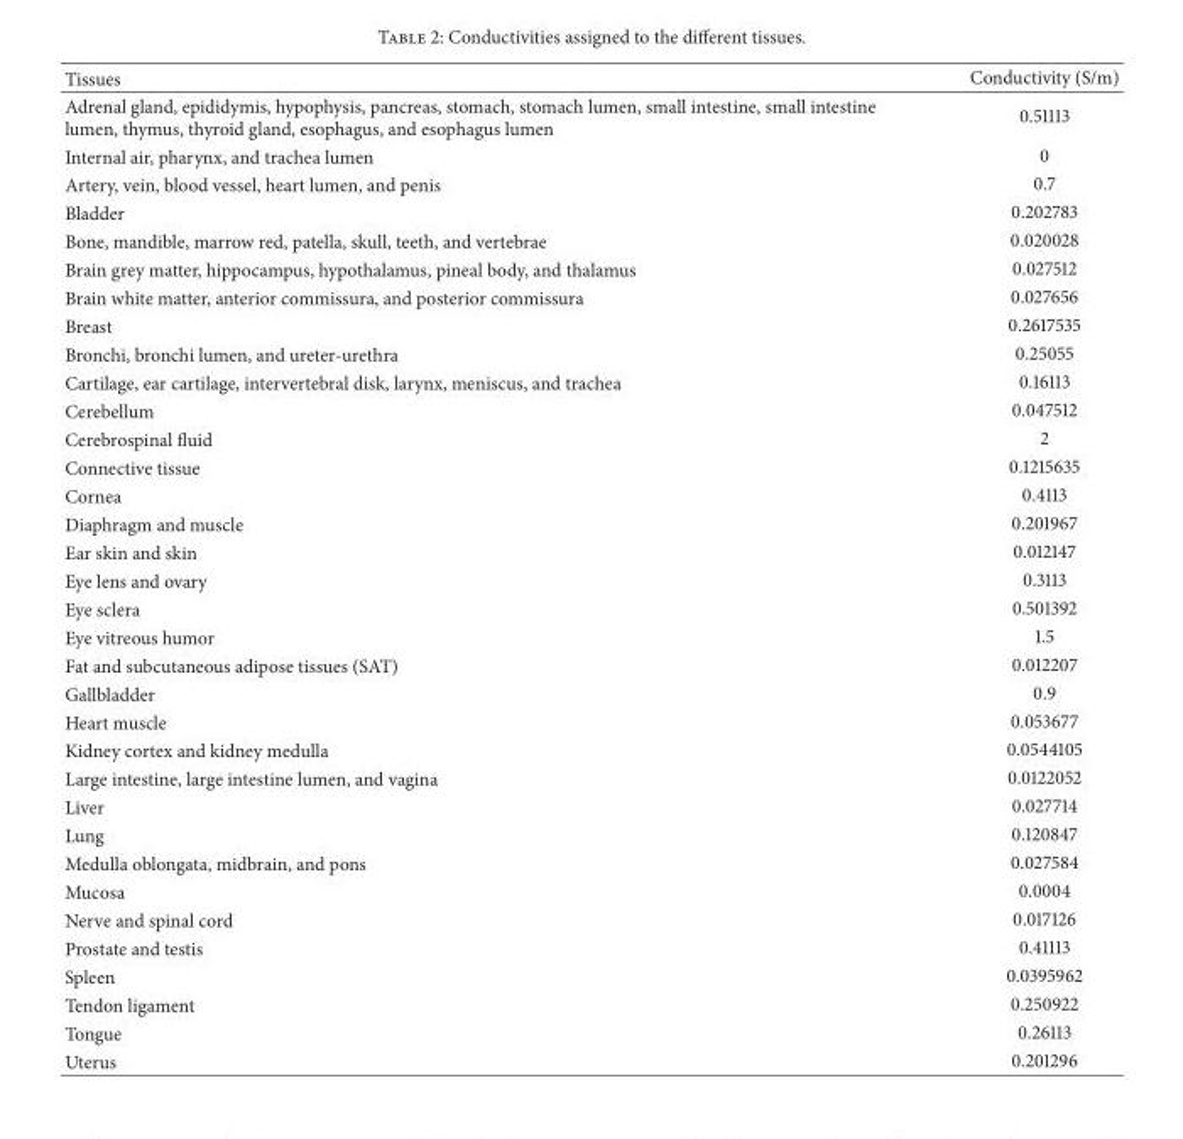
<table><thead><tr><td>Tissues</td><td>Conductivity (S/m)</td></tr></thead><tbody><tr><td>Adrenal gland, epididymis, hypophysis, pancreas, stomach, stomach lumen, small intestine, small intestine lumen, thymus, thyroid gland, esophagus, and esophagus lumen</td><td>0.51113</td></tr><tr><td>Internal air, pharynx, and trachea lumen</td><td>0</td></tr><tr><td>Artery, vein, blood vessel, heart lumen, and penis</td><td>0.7</td></tr><tr><td>Bladder</td><td>0.202783</td></tr><tr><td>Bone, mandible, marrow red, patella, skull, teeth, and vertebrae</td><td>0.020028</td></tr><tr><td>Brain grey matter, hippocampus, hypothalamus, pineal body, and thalamus</td><td>0.027512</td></tr><tr><td>Brain white matter, anterior commissura, and posterior commissura</td><td>0.027656</td></tr><tr><td>Breast</td><td>0.2617535</td></tr><tr><td>Bronchi, bronchi lumen, and ureter-urethra</td><td>0.25055</td></tr><tr><td>Cartilage, ear cartilage, intervertebral disk, larynx, meniscus, and trachea</td><td>0.16113</td></tr><tr><td>Cerebellum</td><td>0.047512</td></tr><tr><td>Cerebrospinal fluid</td><td>2</td></tr><tr><td>Connective tissue</td><td>0.1215635</td></tr><tr><td>Cornea</td><td>0.4113</td></tr><tr><td>Diaphragm and muscle</td><td>0.201967</td></tr><tr><td>Ear skin and skin</td><td>0.012147</td></tr><tr><td>Eye lens and ovary</td><td>0.3113</td></tr><tr><td>Eye sclera</td><td>0.501392</td></tr><tr><td>Eye vitreous humor</td><td>1.5</td></tr><tr><td>Fat and subcutaneous adipose tissues (SAT)</td><td>0.012207</td></tr><tr><td>Gallbladder</td><td>0.9</td></tr><tr><td>Heart muscle</td><td>0.053677</td></tr><tr><td>Kidney cortex and kidney medulla</td><td>0.0544105</td></tr><tr><td>Large intestine, large intestine lumen, and vagina</td><td>0.0122052</td></tr><tr><td>Liver</td><td>0.027714</td></tr><tr><td>Lung</td><td>0.120847</td></tr><tr><td>Medulla oblongata, midbrain, and pons</td><td>0.027584</td></tr><tr><td>Mucosa</td><td>0.0004</td></tr><tr><td>Nerve and spinal cord</td><td>0.017126</td></tr><tr><td>Prostate and testis</td><td>0.41113</td></tr><tr><td>Spleen</td><td>0.0395962</td></tr><tr><td>Tendon ligament</td><td>0.250922</td></tr><tr><td>Tongue</td><td>0.26113</td></tr><tr><td>Uterus</td><td>0.201296</td></tr></tbody></table>